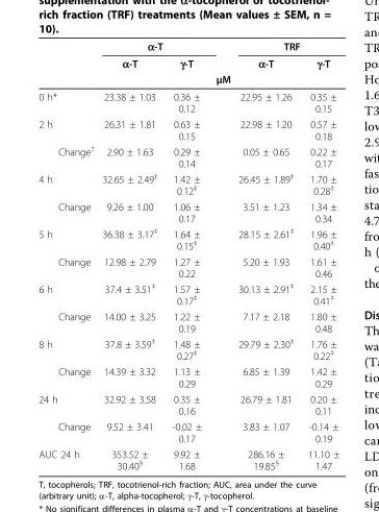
<table><thead><tr><td rowspan="3"></td><td colspan="2">α-T</td><td rowspan="3">μM</td><td colspan="2">TRF</td></tr><tr><td rowspan="2">α-T</td><td rowspan="2">γ-T</td><td rowspan="2">α-T</td><td rowspan="2">γ-T</td></tr><tr></tr></thead><tbody><tr><td>0 h*</td><td>23.38 ± 1.03</td><td>0.36 ± 0.12</td><td></td><td>22.95 ± 1.26</td><td>0.35 ± 0.15</td></tr><tr><td>2 h</td><td>26.31 ± 1.81</td><td>0.63 ± 0.15</td><td></td><td>22.98 ± 1.20</td><td>0.57 ± 0.18</td></tr><tr><td>Change<sup>†</sup></td><td>2.90 ± 1.63</td><td>0.29 ± 0.14</td><td></td><td>0.05 ± 0.65</td><td>0.22 ± 0.17</td></tr><tr><td>4 h</td><td>32.65 ± 2.49<sup>‡</sup></td><td>1.42 ± 0.12<sup>‡</sup></td><td></td><td>26.45 ± 1.89<sup>‡</sup></td><td>1.70 ± 0.28<sup>‡</sup></td></tr><tr><td>Change</td><td>9.26 ± 1.00</td><td>1.06 ± 0.17</td><td></td><td>3.51 ± 1.23</td><td>1.34 ± 0.34</td></tr><tr><td>5 h</td><td>36.38 ± 3.17<sup>‡</sup></td><td>1.64 ± 0.15<sup>‡</sup></td><td></td><td>28.15 ± 2.61<sup>‡</sup></td><td>1.96 ± 0.40<sup>‡</sup></td></tr><tr><td>Change</td><td>12.98 ± 2.79</td><td>1.27 ± 0.22</td><td></td><td>5.20 ± 1.93</td><td>1.61 ± 0.46</td></tr><tr><td>6 h</td><td>37.4 ± 3.51<sup>‡</sup></td><td>1.57 ± 0.17<sup>‡</sup></td><td></td><td>30.13 ± 2.91<sup>‡</sup></td><td>2.15 ± 0.41<sup>‡</sup></td></tr><tr><td>Change</td><td>14.00 ± 3.25</td><td>1.22 ± 0.19</td><td></td><td>7.17 ± 2.18</td><td>1.80 ± 0.48</td></tr><tr><td>8 h</td><td>37.8 ± 3.59<sup>‡</sup></td><td>1.48 ± 0.27<sup>‡</sup></td><td></td><td>29.79 ± 2.30<sup>‡</sup></td><td>1.76 ± 0.22<sup>‡</sup></td></tr><tr><td>Change</td><td>14.39 ± 3.32</td><td>1.13 ± 0.29</td><td></td><td>6.85 ± 1.39</td><td>1.42 ± 0.29</td></tr><tr><td>24 h</td><td>32.92 ± 3.58</td><td>0.35 ± 0.16</td><td></td><td>26.79 ± 1.81</td><td>0.20 ± 0.11</td></tr><tr><td>Change</td><td>9.52 ± 3.41</td><td>-0.02 ± 0.17</td><td></td><td>3.83 ± 1.07</td><td>-0.14 ± 0.19</td></tr><tr><td>AUC 24 h</td><td>353.52 ± 30.40<sup>§</sup></td><td>9.92 ± 1.68</td><td></td><td>286.16 ± 19.85<sup>§</sup></td><td>11.10 ± 1.47</td></tr></tbody></table>